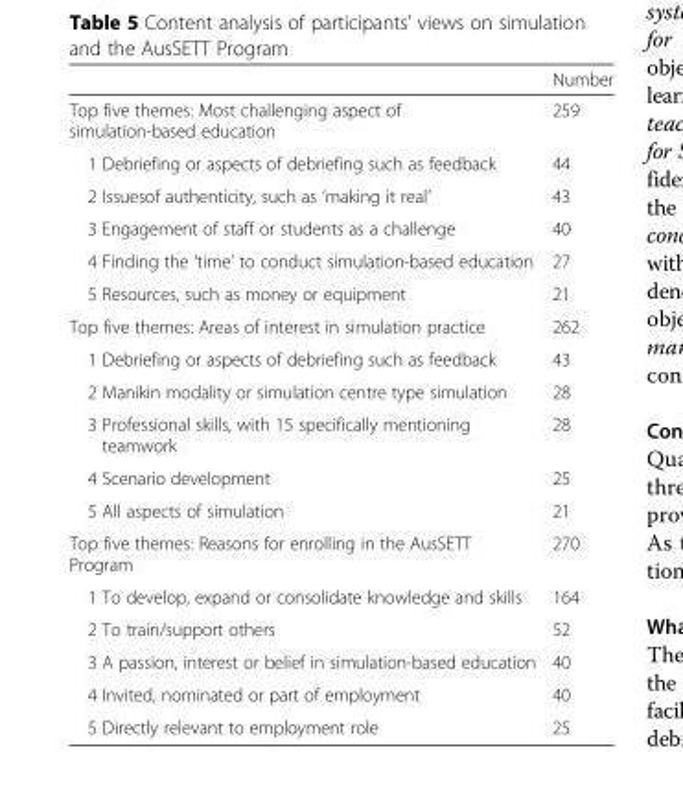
<table><thead><tr><td></td><td>Number</td></tr></thead><tbody><tr><td>Top five themes: Most challenging aspect of simulation-based education</td><td>259</td></tr><tr><td>1 Debriefing or aspects of debriefing such as feedback</td><td>44</td></tr><tr><td>2 Issuesof authenticity, such as ‘making it real’</td><td>43</td></tr><tr><td>3 Engagement of staff or students as a challenge</td><td>40</td></tr><tr><td>4 Finding the ‘time’ to conduct simulation-based education</td><td>27</td></tr><tr><td>5 Resources, such as money or equipment</td><td>21</td></tr><tr><td>Top five themes: Areas of interest in simulation practice</td><td>262</td></tr><tr><td>1 Debriefing or aspects of debriefing such as feedback</td><td>43</td></tr><tr><td>2 Manikin modality or simulation centre type simulation</td><td>28</td></tr><tr><td>3 Professional skills, with 15 specifically mentioning teamwork</td><td>28</td></tr><tr><td>4 Scenario development</td><td>25</td></tr><tr><td>5 All aspects of simulation</td><td>21</td></tr><tr><td>Top five themes: Reasons for enrolling in the AusSETT Program</td><td>270</td></tr><tr><td>1 To develop, expand or consolidate knowledge and skills</td><td>164</td></tr><tr><td>2 To train/support others</td><td>52</td></tr><tr><td>3 A passion, interest or belief in simulation-based education</td><td>40</td></tr><tr><td>4 Invited, nominated or part of employment</td><td>40</td></tr><tr><td>5 Directly relevant to employment role</td><td>25</td></tr></tbody></table>